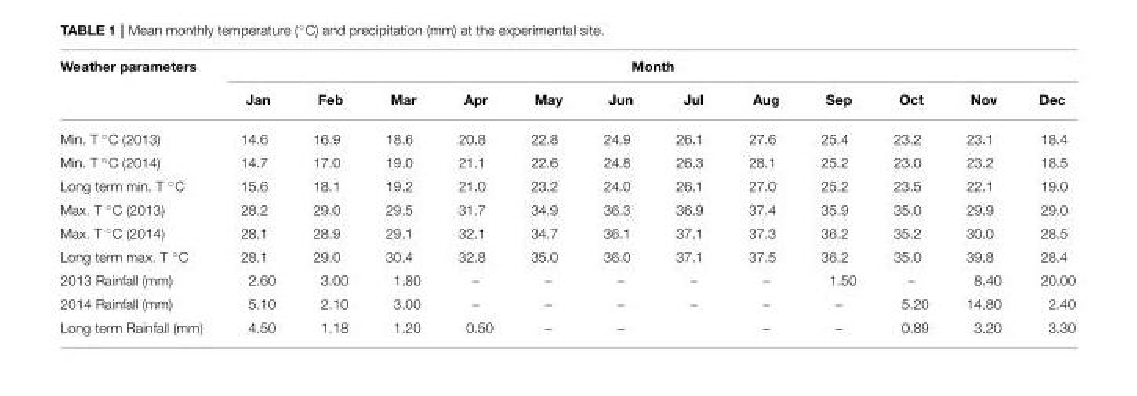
<table><thead><tr><td rowspan="2">Weather parameters</td><td colspan="12">Month</td></tr><tr><td>Jan</td><td>Feb</td><td>Mar</td><td>Apr</td><td>May</td><td>Jun</td><td>Jul</td><td>Aug</td><td>Sep</td><td>Oct</td><td>Nov</td><td>Dec</td></tr></thead><tbody><tr><td>Min. T ◦C (2013)</td><td>14.6</td><td>16.9</td><td>18.6</td><td>20.8</td><td>22.8</td><td>24.9</td><td>26.1</td><td>27.6</td><td>25.4</td><td>23.2</td><td>23.1</td><td>18.4</td></tr><tr><td>Min. T ◦C (2014)</td><td>14.7</td><td>17.0</td><td>19.0</td><td>21.1</td><td>22.6</td><td>24.8</td><td>26.3</td><td>28.1</td><td>25.2</td><td>23.0</td><td>23.2</td><td>18.5</td></tr><tr><td>Long term min. T ◦C</td><td>15.6</td><td>18.1</td><td>19.2</td><td>21.0</td><td>23.2</td><td>24.0</td><td>26.1</td><td>27.0</td><td>25.2</td><td>23.5</td><td>22.1</td><td>19.0</td></tr><tr><td>Max. T ◦C (2013)</td><td>28.2</td><td>29.0</td><td>29.5</td><td>31.7</td><td>34.9</td><td>36.3</td><td>36.9</td><td>37.4</td><td>35.9</td><td>35.0</td><td>29.9</td><td>29.0</td></tr><tr><td>Max. T ◦C (2014)</td><td>28.1</td><td>28.9</td><td>29.1</td><td>32.1</td><td>34.7</td><td>36.1</td><td>37.1</td><td>37.3</td><td>36.2</td><td>35.2</td><td>30.0</td><td>28.5</td></tr><tr><td>Long term max. T ◦C</td><td>28.1</td><td>29.0</td><td>30.4</td><td>32.8</td><td>35.0</td><td>36.0</td><td>37.1</td><td>37.5</td><td>36.2</td><td>35.0</td><td>39.8</td><td>28.4</td></tr><tr><td>2013 Rainfall (mm)</td><td>2.60</td><td>3.00</td><td>1.80</td><td>–</td><td>–</td><td>–</td><td>–</td><td>–</td><td>1.50</td><td>–</td><td>8.40</td><td>20.00</td></tr><tr><td>2014 Rainfall (mm)</td><td>5.10</td><td>2.10</td><td>3.00</td><td>–</td><td>–</td><td>–</td><td>–</td><td>–</td><td>–</td><td>5.20</td><td>14.80</td><td>2.40</td></tr><tr><td>Long term Rainfall (mm)</td><td>4.50</td><td>1.18</td><td>1.20</td><td>0.50</td><td>–</td><td>–</td><td></td><td>–</td><td>–</td><td>0.89</td><td>3.20</td><td>3.30</td></tr></tbody></table>